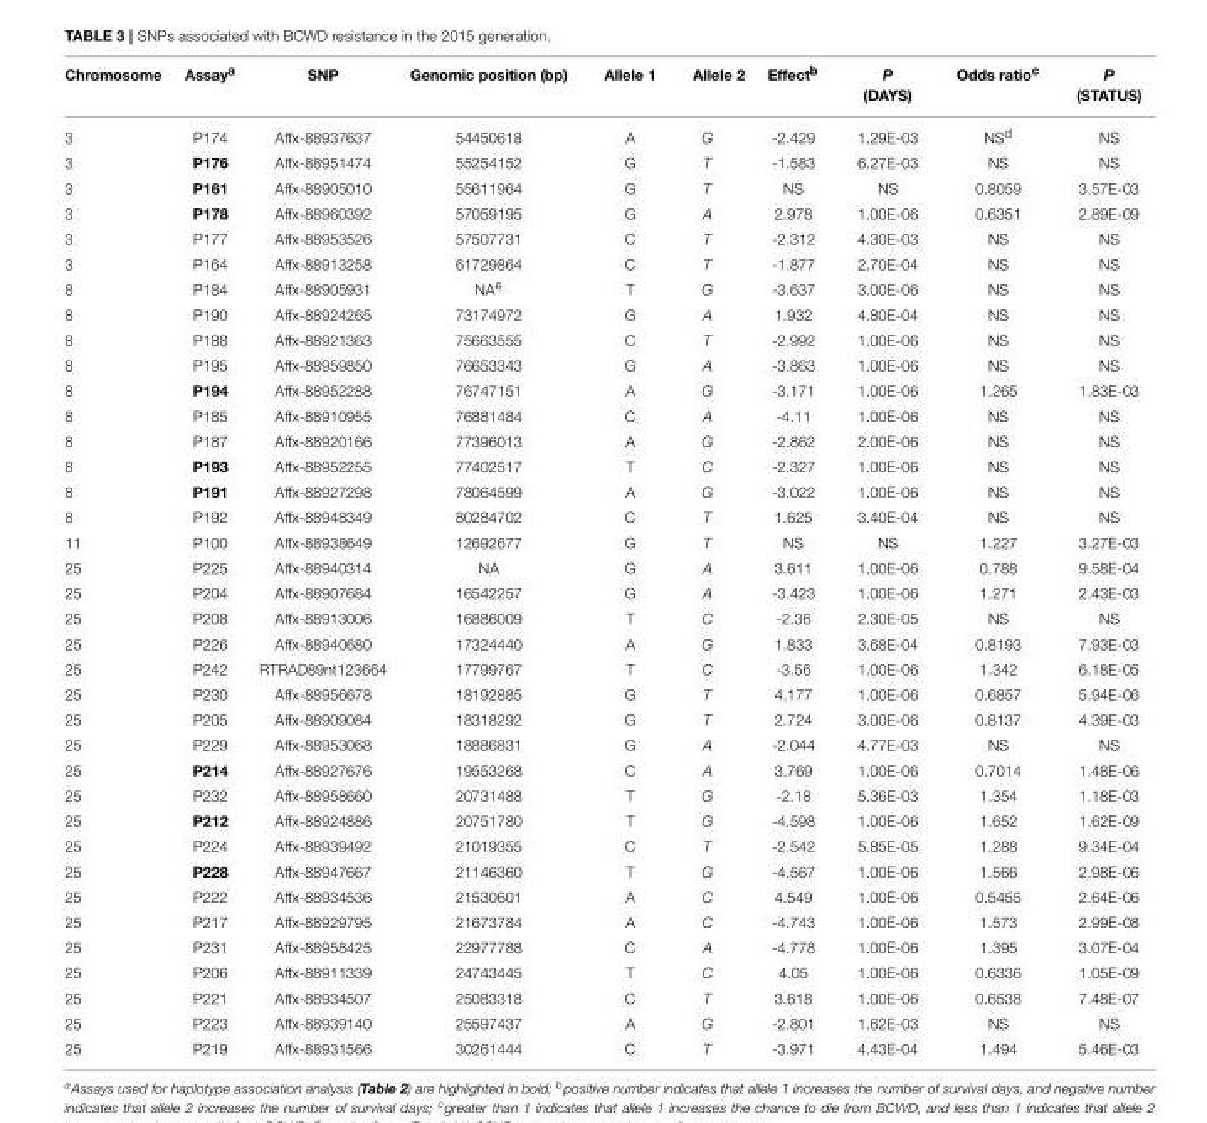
<table><thead><tr><td>Chromosome</td><td>Assay<sup>a</sup></td><td>SNP</td><td>Genomic position (bp)</td><td>Allele 1</td><td>Allele 2</td><td>Effect<sup>b</sup></td><td>P (DAYS)</td><td>Odds ratio<sup>c</sup></td><td>P (STATUS)</td></tr></thead><tbody><tr><td>3</td><td>P174</td><td>Affx-88937637</td><td>54450618</td><td>A</td><td>G</td><td>-2.429</td><td>1.29E-03</td><td>NS<sup>d</sup></td><td>NS</td></tr><tr><td>3</td><td>P176</td><td>Affx-88951474</td><td>55254152</td><td>G</td><td>T</td><td>-1.583</td><td>6.27E-03</td><td>NS</td><td>NS</td></tr><tr><td>3</td><td>P161</td><td>Affx-88905010</td><td>55611964</td><td>G</td><td>T</td><td>NS</td><td>NS</td><td>0.8059</td><td>3.57E-03</td></tr><tr><td>3</td><td>P178</td><td>Affx-88960392</td><td>57059195</td><td>G</td><td>A</td><td>2.978</td><td>1.00E-06</td><td>0.6351</td><td>2.89E-09</td></tr><tr><td>3</td><td>P177</td><td>Affx-88953526</td><td>57507731</td><td>C</td><td>T</td><td>-2.312</td><td>4.30E-03</td><td>NS</td><td>NS</td></tr><tr><td>3</td><td>P164</td><td>Affx-88913258</td><td>61729864</td><td>C</td><td>T</td><td>-1.877</td><td>2.70E-04</td><td>NS</td><td>NS</td></tr><tr><td>8</td><td>P184</td><td>Affx-88905931</td><td>NA<sup>e</sup></td><td>T</td><td>G</td><td>-3.637</td><td>3.00E-06</td><td>NS</td><td>NS</td></tr><tr><td>8</td><td>P190</td><td>Affx-88924265</td><td>73174972</td><td>G</td><td>A</td><td>1.932</td><td>4.80E-04</td><td>NS</td><td>NS</td></tr><tr><td>8</td><td>P188</td><td>Affx-88921363</td><td>75663555</td><td>C</td><td>T</td><td>-2.992</td><td>1.00E-06</td><td>NS</td><td>NS</td></tr><tr><td>8</td><td>P195</td><td>Affx-88959850</td><td>76653343</td><td>G</td><td>A</td><td>-3.863</td><td>1.00E-06</td><td>NS</td><td>NS</td></tr><tr><td>8</td><td>P194</td><td>Affx-88952288</td><td>76747151</td><td>A</td><td>G</td><td>-3.171</td><td>1.00E-06</td><td>1.265</td><td>1.83E-03</td></tr><tr><td>8</td><td>P185</td><td>Affx-88910955</td><td>76881484</td><td>C</td><td>A</td><td>-4.11</td><td>1.00E-06</td><td>NS</td><td>NS</td></tr><tr><td>8</td><td>P187</td><td>Affx-88920166</td><td>77396013</td><td>A</td><td>G</td><td>-2.862</td><td>2.00E-06</td><td>NS</td><td>NS</td></tr><tr><td>8</td><td>P193</td><td>Affx-88952255</td><td>77402517</td><td>T</td><td>C</td><td>-2.327</td><td>1.00E-06</td><td>NS</td><td>NS</td></tr><tr><td>8</td><td>P191</td><td>Affx-88927298</td><td>78064599</td><td>A</td><td>G</td><td>-3.022</td><td>1.00E-06</td><td>NS</td><td>NS</td></tr><tr><td>8</td><td>P192</td><td>Affx-88948349</td><td>80284702</td><td>C</td><td>T</td><td>1.625</td><td>3.40E-04</td><td>NS</td><td>NS</td></tr><tr><td>11</td><td>P100</td><td>Affx-88938649</td><td>12692677</td><td>G</td><td>T</td><td>NS</td><td>NS</td><td>1.227</td><td>3.27E-03</td></tr><tr><td>25</td><td>P225</td><td>Affx-88940314</td><td>NA</td><td>G</td><td>A</td><td>3.611</td><td>1.00E-06</td><td>0.788</td><td>9.58E-04</td></tr><tr><td>25</td><td>P204</td><td>Affx-88907684</td><td>16542257</td><td>G</td><td>A</td><td>-3.423</td><td>1.00E-06</td><td>1.271</td><td>2.43E-03</td></tr><tr><td>25</td><td>P208</td><td>Affx-88913006</td><td>16886009</td><td>T</td><td>C</td><td>-2.36</td><td>2.30E-05</td><td>NS</td><td>NS</td></tr><tr><td>25</td><td>P226</td><td>Affx-88940680</td><td>17324440</td><td>A</td><td>G</td><td>1.833</td><td>3.68E-04</td><td>0.8193</td><td>7.93E-03</td></tr><tr><td>25</td><td>P242</td><td>RTRAD89nt123664</td><td>17799767</td><td>T</td><td>C</td><td>-3.56</td><td>1.00E-06</td><td>1.342</td><td>6.18E-05</td></tr><tr><td>25</td><td>P230</td><td>Affx-88956678</td><td>18192885</td><td>G</td><td>T</td><td>4.177</td><td>1.00E-06</td><td>0.6857</td><td>5.94E-06</td></tr><tr><td>25</td><td>P205</td><td>Affx-88909084</td><td>18318292</td><td>G</td><td>T</td><td>2.724</td><td>3.00E-06</td><td>0.8137</td><td>4.39E-03</td></tr><tr><td>25</td><td>P229</td><td>Affx-88953068</td><td>18886831</td><td>G</td><td>A</td><td>-2.044</td><td>4.77E-03</td><td>NS</td><td>NS</td></tr><tr><td>25</td><td>P214</td><td>Affx-88927676</td><td>19553268</td><td>C</td><td>A</td><td>3.769</td><td>1.00E-06</td><td>0.7014</td><td>1.48E-06</td></tr><tr><td>25</td><td>P232</td><td>Affx-88958660</td><td>20731488</td><td>T</td><td>G</td><td>-2.18</td><td>5.36E-03</td><td>1.354</td><td>1.18E-03</td></tr><tr><td>25</td><td>P212</td><td>Affx-88924886</td><td>20751780</td><td>T</td><td>G</td><td>-4.598</td><td>1.00E-06</td><td>1.652</td><td>1.62E-09</td></tr><tr><td>25</td><td>P224</td><td>Affx-88939492</td><td>21019355</td><td>C</td><td>T</td><td>-2.542</td><td>5.85E-05</td><td>1.288</td><td>9.34E-04</td></tr><tr><td>25</td><td>P228</td><td>Affx-88947667</td><td>21146360</td><td>T</td><td>G</td><td>-4.567</td><td>1.00E-06</td><td>1.566</td><td>2.98E-06</td></tr><tr><td>25</td><td>P222</td><td>Affx-88934536</td><td>21530601</td><td>A</td><td>C</td><td>4.549</td><td>1.00E-06</td><td>0.5455</td><td>2.64E-06</td></tr><tr><td>25</td><td>P217</td><td>Affx-88929795</td><td>21673784</td><td>A</td><td>C</td><td>-4.743</td><td>1.00E-06</td><td>1.573</td><td>2.99E-08</td></tr><tr><td>25</td><td>P231</td><td>Affx-88958425</td><td>22977788</td><td>C</td><td>A</td><td>-4.778</td><td>1.00E-06</td><td>1.395</td><td>3.07E-04</td></tr><tr><td>25</td><td>P206</td><td>Affx-88911339</td><td>24743445</td><td>T</td><td>C</td><td>4.05</td><td>1.00E-06</td><td>0.6336</td><td>1.05E-09</td></tr><tr><td>25</td><td>P221</td><td>Affx-88934507</td><td>25083318</td><td>C</td><td>T</td><td>3.618</td><td>1.00E-06</td><td>0.6538</td><td>7.48E-07</td></tr><tr><td>25</td><td>P223</td><td>Affx-88939140</td><td>25597437</td><td>A</td><td>G</td><td>-2.801</td><td>1.62E-03</td><td>NS</td><td>NS</td></tr><tr><td>25</td><td>P219</td><td>Affx-88931566</td><td>30261444</td><td>C</td><td>T</td><td>-3.971</td><td>4.43E-04</td><td>1.494</td><td>5.46E-03</td></tr></tbody></table>